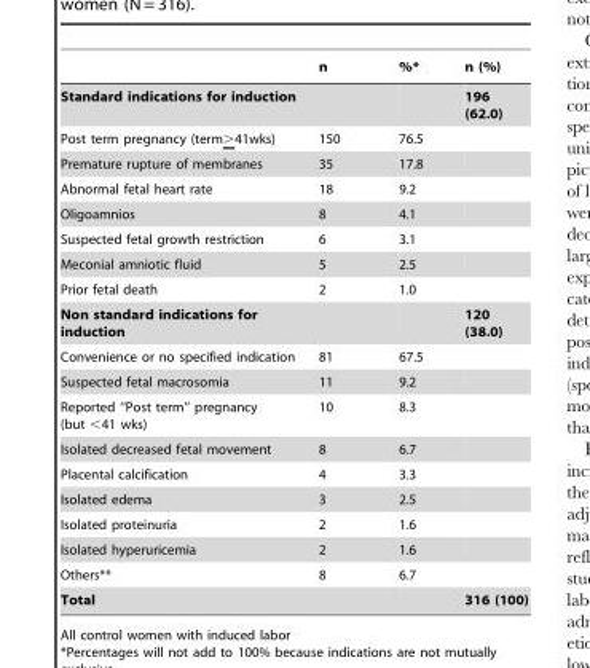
<table><thead><tr><td></td><td>n</td><td>%*</td><td>n (%)</td></tr></thead><tbody><tr><td>Standard indications for induction</td><td></td><td></td><td>196 (62.0)</td></tr><tr><td>Post term pregnancy (term&gt;41wks)</td><td>150</td><td>76.5</td><td></td></tr><tr><td>Premature rupture of membranes</td><td>35</td><td>17.8</td><td></td></tr><tr><td>Abnormal fetal heart rate</td><td>18</td><td>9.2</td><td></td></tr><tr><td>Oligoamnios</td><td>8</td><td>4.1</td><td></td></tr><tr><td>Suspected fetal growth restriction</td><td>6</td><td>3.1</td><td></td></tr><tr><td>Meconial amniotic fluid</td><td>5</td><td>2.5</td><td></td></tr><tr><td>Prior fetal death</td><td>2</td><td>1.0</td><td></td></tr><tr><td>Non standard indications for induction</td><td></td><td></td><td>120 (38.0)</td></tr><tr><td>Convenience or no specified indication</td><td>81</td><td>67.5</td><td></td></tr><tr><td>Suspected fetal macrosomia</td><td>11</td><td>9.2</td><td></td></tr><tr><td>Reported ‘‘Post term’’ pregnancy (but ,41 wks)</td><td>10</td><td>8.3</td><td></td></tr><tr><td>Isolated decreased fetal movement</td><td>8</td><td>6.7</td><td></td></tr><tr><td>Placental calcification</td><td>4</td><td>3.3</td><td></td></tr><tr><td>Isolated edema</td><td>3</td><td>2.5</td><td></td></tr><tr><td>Isolated proteinuria</td><td>2</td><td>1.6</td><td></td></tr><tr><td>Isolated hyperuricemia</td><td>2</td><td>1.6</td><td></td></tr><tr><td>Others**</td><td>8</td><td>6.7</td><td></td></tr><tr><td>Total</td><td></td><td></td><td>316 (100)</td></tr></tbody></table>